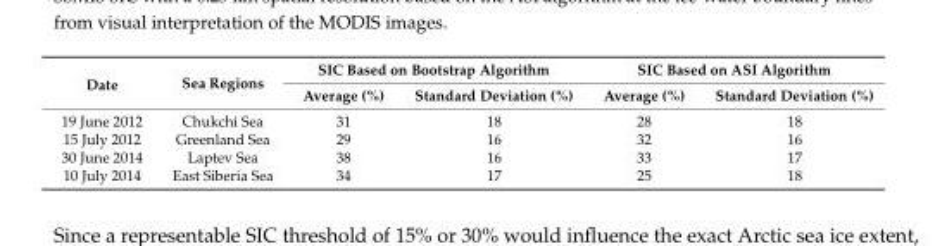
<table><thead><tr><td rowspan="2">Date</td><td rowspan="2">Sea Regions</td><td colspan="2">SIC Based on Bootstrap Algorithm</td><td colspan="2">SIC Based on ASI Algorithm</td></tr><tr><td>Average (%)</td><td>Standard Deviation (%)</td><td>Average (%)</td><td>Standard Deviation (%)</td></tr></thead><tbody><tr><td>19 June 2012</td><td>Chukchi Sea</td><td>31</td><td>18</td><td>28</td><td>18</td></tr><tr><td>15 July 2012</td><td>Greenland Sea</td><td>29</td><td>16</td><td>32</td><td>16</td></tr><tr><td>30 June 2014</td><td>Laptev Sea</td><td>38</td><td>16</td><td>33</td><td>17</td></tr><tr><td>10 July 2014</td><td>East Siberia Sea</td><td>34</td><td>17</td><td>25</td><td>18</td></tr></tbody></table>